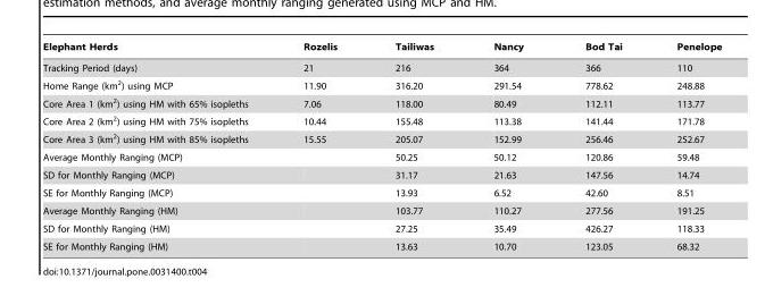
<table><thead><tr><td>Elephant Herds</td><td>Rozelis</td><td>Tailiwas</td><td>Nancy</td><td>Bod Tai</td><td>Penelope</td></tr></thead><tbody><tr><td>Tracking Period (days)</td><td>21</td><td>216</td><td>364</td><td>366</td><td>110</td></tr><tr><td>Home Range (km<sup>2</sup>) using MCP</td><td>11.90</td><td>316.20</td><td>291.54</td><td>778.62</td><td>248.88</td></tr><tr><td>Core Area 1 (km<sup>2</sup>) using HM with 65% isopleths</td><td>7.06</td><td>118.00</td><td>80.49</td><td>112.11</td><td>113.77</td></tr><tr><td>Core Area 2 (km<sup>2</sup>) using HM with 75% isopleths</td><td>10.44</td><td>155.48</td><td>113.38</td><td>141.44</td><td>171.78</td></tr><tr><td>Core Area 3 (km<sup>2</sup>) using HM with 85% isopleths</td><td>15.55</td><td>205.07</td><td>152.99</td><td>256.46</td><td>252.67</td></tr><tr><td>Average Monthly Ranging (MCP)</td><td></td><td>50.25</td><td>50.12</td><td>120.86</td><td>59.48</td></tr><tr><td>SD for Monthly Ranging (MCP)</td><td></td><td>31.17</td><td>21.63</td><td>147.56</td><td>14.74</td></tr><tr><td>SE for Monthly Ranging (MCP)</td><td></td><td>13.93</td><td>6.52</td><td>42.60</td><td>8.51</td></tr><tr><td>Average Monthly Ranging (HM)</td><td></td><td>103.77</td><td>110.27</td><td>277.56</td><td>191.25</td></tr><tr><td>SD for Monthly Ranging (HM)</td><td></td><td>27.25</td><td>35.49</td><td>426.27</td><td>118.33</td></tr><tr><td>SE for Monthly Ranging (HM)</td><td></td><td>13.63</td><td>10.70</td><td>123.05</td><td>68.32</td></tr></tbody></table>